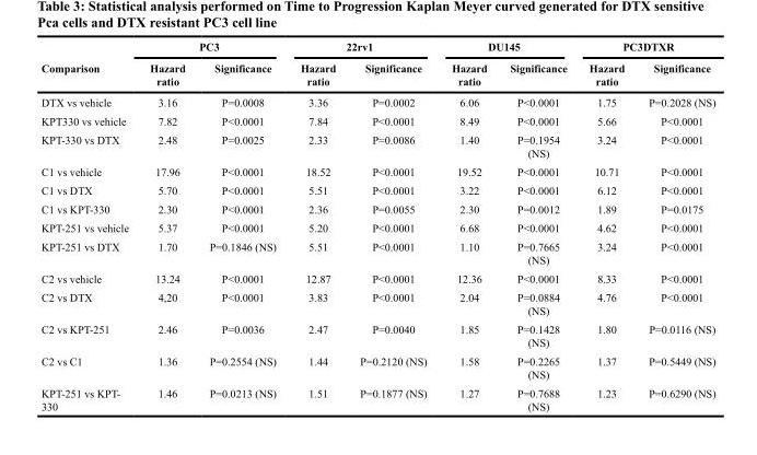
<table><thead><tr><td rowspan="2">Comparison</td><td colspan="2">PC3</td><td colspan="2">22rv1</td><td colspan="2">DU145</td><td colspan="2">PC3DTXR</td></tr><tr><td>Hazard ratio</td><td>Significance</td><td>Hazard ratio</td><td>Significance</td><td>Hazard ratio</td><td>Significance</td><td>Hazard ratio</td><td>Significance</td></tr></thead><tbody><tr><td>DTX vs vehicle</td><td>3.16</td><td>P=0.0008</td><td>3.36</td><td>P=0.0002</td><td>6.06</td><td>P&lt;0.0001</td><td>1.75</td><td>P=0.2028 (NS)</td></tr><tr><td>KPT330 vs vehicle</td><td>7.82</td><td>P&lt;0.0001</td><td>7.84</td><td>P&lt;0.0001</td><td>8.49</td><td>P&lt;0.0001</td><td>5.66</td><td>P&lt;0.0001</td></tr><tr><td>KPT-330 vs DTX</td><td>2.48</td><td>P=0.0025</td><td>2.33</td><td>P=0.0086</td><td>1.40</td><td>P=0.1954 (NS)</td><td>3.24</td><td>P&lt;0.0001</td></tr><tr><td>C1 vs vehicle</td><td>17.96</td><td>P&lt;0.0001</td><td>18.52</td><td>P&lt;0.0001</td><td>19.52</td><td>P&lt;0.0001</td><td>10.71</td><td>P&lt;0.0001</td></tr><tr><td>C1 vs DTX</td><td>5.70</td><td>P&lt;0.0001</td><td>5.51</td><td>P&lt;0.0001</td><td>3.22</td><td>P&lt;0.0001</td><td>6.12</td><td>P&lt;0.0001</td></tr><tr><td>C1 vs KPT-330</td><td>2.30</td><td>P&lt;0.0001</td><td>2.36</td><td>P=0.0055</td><td>2.30</td><td>P=0.0012</td><td>1.89</td><td>P=0.0175</td></tr><tr><td>KPT-251 vs vehicle</td><td>5.37</td><td>P&lt;0.0001</td><td>5.20</td><td>P&lt;0.0001</td><td>6.68</td><td>P&lt;0.0001</td><td>4.62</td><td>P&lt;0.0001</td></tr><tr><td>KPT-251 vs DTX</td><td>1.70</td><td>P=0.1846 (NS)</td><td>5.51</td><td>P&lt;0.0001</td><td>1.10</td><td>P=0.7665 (NS)</td><td>3.24</td><td>P&lt;0.0001</td></tr><tr><td>C2 vs vehicle</td><td>13.24</td><td>P&lt;0.0001</td><td>12.87</td><td>P&lt;0.0001</td><td>12.36</td><td>P&lt;0.0001</td><td>8.33</td><td>P&lt;0.0001</td></tr><tr><td>C2 vs DTX</td><td>4,20</td><td>P&lt;0.0001</td><td>3.83</td><td>P&lt;0.0001</td><td>2.04</td><td>P=0.0884 (NS)</td><td>4.76</td><td>P&lt;0.0001</td></tr><tr><td>C2 vs KPT-251</td><td>2.46</td><td>P=0.0036</td><td>2.47</td><td>P=0.0040</td><td>1.85</td><td>P=0.1428 (NS)</td><td>1.80</td><td>P=0.0116 (NS)</td></tr><tr><td>C2 vs C1</td><td>1.36</td><td>P=0.2554 (NS)</td><td>1.44</td><td>P=0.2120 (NS)</td><td>1.58</td><td>P=0.2265 (NS)</td><td>1.37</td><td>P=0.5449 (NS)</td></tr><tr><td>KPT-251 vs KPT- 330</td><td>1.46</td><td>P=0.0213 (NS)</td><td>1.51</td><td>P=0.1877 (NS)</td><td>1.27</td><td>P=0.7688 (NS)</td><td>1.23</td><td>P=0.6290 (NS)</td></tr></tbody></table>